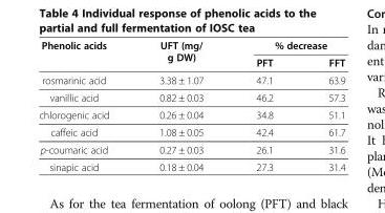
<table><thead><tr><td rowspan="2">Phenolic acids</td><td rowspan="2">UFT (mg/ g DW)</td><td colspan="2">% decrease</td></tr><tr><td>PFT</td><td>FFT</td></tr></thead><tbody><tr><td>rosmarinic acid</td><td>3.38 ± 1.07</td><td>47.1</td><td>63.9</td></tr><tr><td>vanillic acid</td><td>0.82 ± 0.03</td><td>46.2</td><td>57.3</td></tr><tr><td>chlorogenic acid</td><td>0.26 ± 0.04</td><td>34.8</td><td>51.1</td></tr><tr><td>caffeic acid</td><td>1.08 ± 0.05</td><td>42.4</td><td>61.7</td></tr><tr><td>p-coumaric acid</td><td>0.27 ± 0.03</td><td>26.1</td><td>31.6</td></tr><tr><td>sinapic acid</td><td>0.18 ± 0.04</td><td>27.3</td><td>31.4</td></tr></tbody></table>